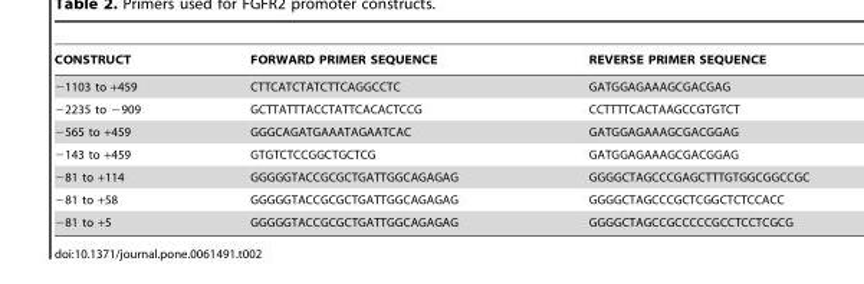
<table><thead><tr><td>CONSTRUCT</td><td>FORWARD PRIMER SEQUENCE</td><td>REVERSE PRIMER SEQUENCE</td></tr></thead><tbody><tr><td>−1103 to +459</td><td>CTTCATCTATCTTCAGGCCTC</td><td>GATGGAGAAAGCGACGAG</td></tr><tr><td>−2235 to −909</td><td>GCTTATTTACCTATTCACACTCCG</td><td>CCTTTTCACTAAGCCGTGTCT</td></tr><tr><td>−565 to +459</td><td>GGGCAGATGAAATAGAATCAC</td><td>GATGGAGAAAGCGACGGAG</td></tr><tr><td>−143 to +459</td><td>GTGTCTCCGGCTGCTCG</td><td>GATGGAGAAAGCGACGGAG</td></tr><tr><td>−81 to +114</td><td>GGGGGTACCGCGCTGATTGGCAGAGAG</td><td>GGGGCTAGCCCGAGCTTTGTGGCGGCCGC</td></tr><tr><td>−81 to +58</td><td>GGGGGTACCGCGCTGATTGGCAGAGAG</td><td>GGGGCTAGCCCGCTCGGCTCTCCACC</td></tr><tr><td>−81 to +5</td><td>GGGGGTACCGCGCTGATTGGCAGAGAG</td><td>GGGGCTAGCCGCCCCCGCCTCCTCGCG</td></tr></tbody></table>